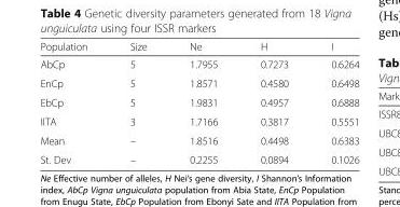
<table><thead><tr><td>Population</td><td>Size</td><td>Ne</td><td>H</td><td>I</td></tr></thead><tbody><tr><td>AbCp</td><td>5</td><td>1.7955</td><td>0.7273</td><td>0.6264</td></tr><tr><td>EnCp</td><td>5</td><td>1.8571</td><td>0.4580</td><td>0.6498</td></tr><tr><td>EbCp</td><td>5</td><td>1.9831</td><td>0.4957</td><td>0.6888</td></tr><tr><td>IITA</td><td>3</td><td>1.7166</td><td>0.3817</td><td>0.5551</td></tr><tr><td>Mean</td><td>–</td><td>1.8516</td><td>0.4498</td><td>0.6383</td></tr><tr><td>St. Dev</td><td>–</td><td>0.2255</td><td>0.0894</td><td>0.1026</td></tr></tbody></table>